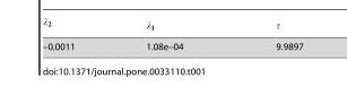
<table><tbody><tr><td>–0.0011</td><td>1.08e–04</td><td>9.9897</td></tr></tbody></table>